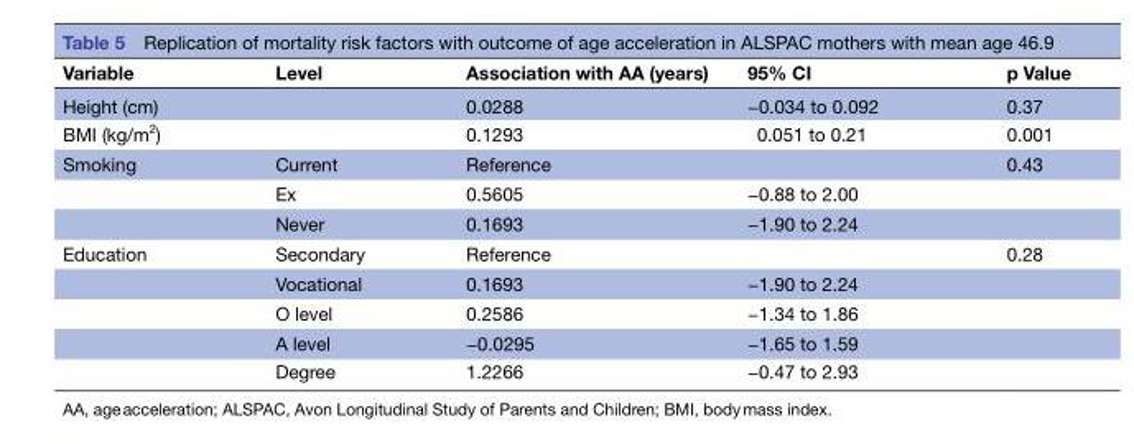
<table><thead><tr><td>Variable</td><td>Level</td><td>Association with AA (years)</td><td>95% CI</td><td>p Value</td></tr></thead><tbody><tr><td>Height (cm)</td><td></td><td>0.0288</td><td>−0.034 to 0.092</td><td>0.37</td></tr><tr><td>BMI (kg/m<sup>2</sup>)</td><td></td><td>0.1293</td><td>0.051 to 0.21</td><td>0.001</td></tr><tr><td rowspan="3">Smoking</td><td>Current</td><td>Reference</td><td></td><td>0.43</td></tr><tr><td>Ex</td><td>0.5605</td><td>−0.88 to 2.00</td><td></td></tr><tr><td>Never</td><td>0.1693</td><td>−1.90 to 2.24</td><td></td></tr><tr><td rowspan="5">Education</td><td>Secondary</td><td>Reference</td><td></td><td>0.28</td></tr><tr><td>Vocational</td><td>0.1693</td><td>−1.90 to 2.24</td><td></td></tr><tr><td>O level</td><td>0.2586</td><td>−1.34 to 1.86</td><td></td></tr><tr><td>A level</td><td>−0.0295</td><td>−1.65 to 1.59</td><td></td></tr><tr><td>Degree</td><td>1.2266</td><td>−0.47 to 2.93</td><td></td></tr></tbody></table>